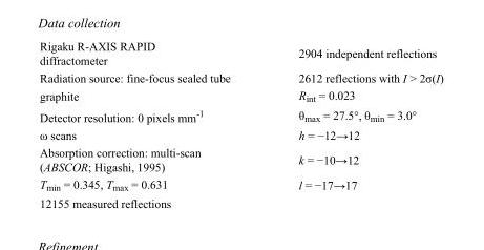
<table><tbody><tr><td>Rigaku R-AXIS RAPID diffractometer</td><td>2904 independent reflections</td></tr><tr><td>Radiation source: fine-focus sealed tube</td><td>2612 reflections with I &gt; 2σ(I)</td></tr><tr><td>graphite</td><td>R<sub>int</sub> = 0.023</td></tr><tr><td>Detector resolution: 0 pixels mm<sup>-1</sup></td><td>θ<sub>max</sub> = 27.5°, θ<sub>min</sub> = 3.0°</td></tr><tr><td>ω scans</td><td>h = −12→12</td></tr><tr><td>Absorption correction: multi-scan (ABSCOR; Higashi, 1995)</td><td>k = −10→12</td></tr><tr><td>T<sub>min</sub> = 0.345, T<sub>max</sub> = 0.631</td><td>l = −17→17</td></tr><tr><td>12155 measured reflections</td><td></td></tr></tbody></table>